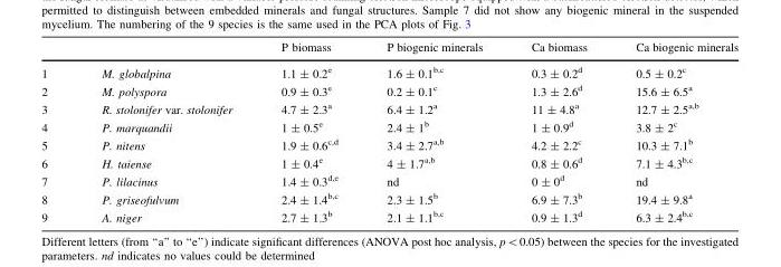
<table><thead><tr><td></td><td></td><td>P biomass</td><td>P biogenic minerals</td><td>Ca biomass</td><td>Ca biogenic minerals</td></tr></thead><tbody><tr><td>1</td><td>M. globalpina</td><td>1.1 ± 0.2<sup>e</sup></td><td>1.6 ± 0.1<sup>b,c</sup></td><td>0.3 ± 0.2<sup>d</sup></td><td>0.5 ± 0.2<sup>c</sup></td></tr><tr><td>2</td><td>M. polyspora</td><td>0.9 ± 0.3<sup>e</sup></td><td>0.2 ± 0.1<sup>c</sup></td><td>1.3 ± 2.6<sup>d</sup></td><td>15.6 ± 6.5<sup>a</sup></td></tr><tr><td>3</td><td>R. stolonifer var. stolonifer</td><td>4.7 ± 2.3<sup>a</sup></td><td>6.4 ± 1.2<sup>a</sup></td><td>11 ± 4.8<sup>a</sup></td><td>12.7 ± 2.5<sup>a,b</sup></td></tr><tr><td>4</td><td>P. marquandii</td><td>1 ± 0.5<sup>e</sup></td><td>2.4 ± 1<sup>b</sup></td><td>1 ± 0.9<sup>d</sup></td><td>3.8 ± 2<sup>c</sup></td></tr><tr><td>5</td><td>P. nitens</td><td>1.9 ± 0.6<sup>c,d</sup></td><td>3.4 ± 2.7<sup>a,b</sup></td><td>4.2 ± 2.2<sup>c</sup></td><td>10.3 ± 7.1<sup>b</sup></td></tr><tr><td>6</td><td>H. taiense</td><td>1 ± 0.4<sup>e</sup></td><td>4 ± 1.7<sup>a,b</sup></td><td>0.8 ± 0.6<sup>d</sup></td><td>7.1 ± 4.3<sup>b,c</sup></td></tr><tr><td>7</td><td>P. lilacinus</td><td>1.4 ± 0.3<sup>d,e</sup></td><td>nd</td><td>0 ± 0<sup>d</sup></td><td>nd</td></tr><tr><td>8</td><td>P. griseofulvum</td><td>2.4 ± 1.4<sup>b,c</sup></td><td>2.3 ± 1.5<sup>b</sup></td><td>6.9 ± 7.3<sup>b</sup></td><td>19.4 ± 9.8<sup>a</sup></td></tr><tr><td>9</td><td>A. niger</td><td>2.7 ± 1.3<sup>b</sup></td><td>2.1 ± 1.1<sup>b,c</sup></td><td>0.9 ± 1.3<sup>d</sup></td><td>6.3 ± 2.4<sup>b,c</sup></td></tr></tbody></table>